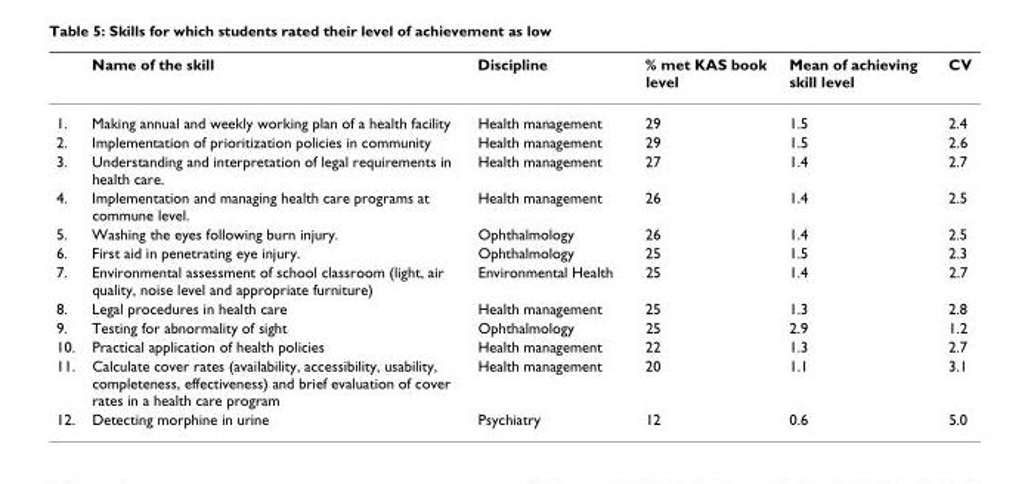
<table><thead><tr><td></td><td>Name of the skill</td><td>Discipline</td><td>% met KAS book level</td><td>Mean of achieving skill level</td><td>CV</td></tr></thead><tbody><tr><td>1.</td><td>Making annual and weekly working plan of a health facility</td><td>Health management</td><td>29</td><td>1.5</td><td>2.4</td></tr><tr><td>2.</td><td>Implementation of prioritization policies in community</td><td>Health management</td><td>29</td><td>1.5</td><td>2.6</td></tr><tr><td>3.</td><td>Understanding and interpretation of legal requirements in health care.</td><td>Health management</td><td>27</td><td>1.4</td><td>2.7</td></tr><tr><td>4.</td><td>Implementation and managing health care programs at commune level.</td><td>Health management</td><td>26</td><td>1.4</td><td>2.5</td></tr><tr><td>5.</td><td>Washing the eyes following burn injury.</td><td>Ophthalmology</td><td>26</td><td>1.4</td><td>2.5</td></tr><tr><td>6.</td><td>First aid in penetrating eye injury.</td><td>Ophthalmology</td><td>25</td><td>1.5</td><td>2.3</td></tr><tr><td>7.</td><td>Environmental assessment of school classroom (light, air quality, noise level and appropriate furniture)</td><td>Environmental Health</td><td>25</td><td>1.4</td><td>2.7</td></tr><tr><td>8.</td><td>Legal procedures in health care</td><td>Health management</td><td>25</td><td>1.3</td><td>2.8</td></tr><tr><td>9.</td><td>Testing for abnormality of sight</td><td>Ophthalmology</td><td>25</td><td>2.9</td><td>1.2</td></tr><tr><td>10.</td><td>Practical application of health policies</td><td>Health management</td><td>22</td><td>1.3</td><td>2.7</td></tr><tr><td>11.</td><td>Calculate cover rates (availability, accessibility, usability, completeness, effectiveness) and brief evaluation of cover rates in a health care program</td><td>Health management</td><td>20</td><td>1.1</td><td>3.1</td></tr><tr><td>12.</td><td>Detecting morphine in urine</td><td>Psychiatry</td><td>12</td><td>0.6</td><td>5.0</td></tr></tbody></table>